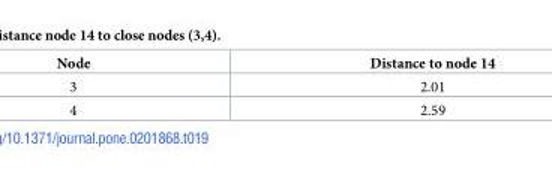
<table><thead><tr><td>Node</td><td>Distance to node 14</td></tr></thead><tbody><tr><td>3</td><td>2.01</td></tr><tr><td>4</td><td>2.59</td></tr></tbody></table>